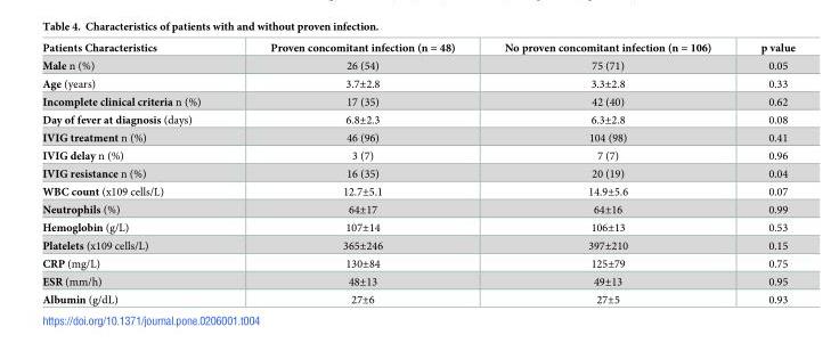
<table><thead><tr><td>Patients Characteristics</td><td>Proven concomitant infection (n = 48)</td><td>No proven concomitant infection (n = 106)</td><td>p value</td></tr></thead><tbody><tr><td>Male n (%)</td><td>26 (54)</td><td>75 (71)</td><td>0.05</td></tr><tr><td>Age (years)</td><td>3.7±2.8</td><td>3.3±2.8</td><td>0.33</td></tr><tr><td>Incomplete clinical criteria n (%)</td><td>17 (35)</td><td>42 (40)</td><td>0.62</td></tr><tr><td>Day of fever at diagnosis (days)</td><td>6.8±2.3</td><td>6.3±2.8</td><td>0.08</td></tr><tr><td>IVIG treatment n (%)</td><td>46 (96)</td><td>104 (98)</td><td>0.41</td></tr><tr><td>IVIG delay n (%)</td><td>3 (7)</td><td>7 (7)</td><td>0.96</td></tr><tr><td>IVIG resistance n (%)</td><td>16 (35)</td><td>20 (19)</td><td>0.04</td></tr><tr><td>WBC count (x109 cells/L)</td><td>12.7±5.1</td><td>14.9±5.6</td><td>0.07</td></tr><tr><td>Neutrophils (%)</td><td>64±17</td><td>64±16</td><td>0.99</td></tr><tr><td>Hemoglobin (g/L)</td><td>107±14</td><td>106±13</td><td>0.53</td></tr><tr><td>Platelets (x109 cells/L)</td><td>365±246</td><td>397±210</td><td>0.15</td></tr><tr><td>CRP (mg/L)</td><td>130±84</td><td>125±79</td><td>0.75</td></tr><tr><td>ESR (mm/h)</td><td>48±13</td><td>49±13</td><td>0.95</td></tr><tr><td>Albumin (g/dL)</td><td>27±6</td><td>27±5</td><td>0.93</td></tr></tbody></table>